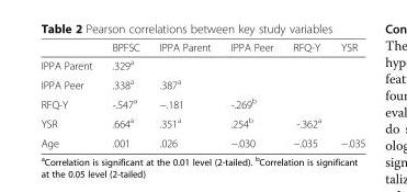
<table><thead><tr><td></td><td>BPFSC</td><td>IPPA Parent</td><td>IPPA Peer</td><td>RFQ-Y</td><td>YSR</td></tr></thead><tbody><tr><td>IPPA Parent</td><td>.329<sup>a</sup></td><td></td><td></td><td></td><td></td></tr><tr><td>IPPA Peer</td><td>.338<sup>a</sup></td><td>.387<sup>a</sup></td><td></td><td></td><td></td></tr><tr><td>RFQ-Y</td><td>-.547<sup>a</sup></td><td>−.181</td><td>-.269<sup>b</sup></td><td></td><td></td></tr><tr><td>YSR</td><td>.664<sup>a</sup></td><td>.351<sup>a</sup></td><td>.254<sup>b</sup></td><td>-.362<sup>a</sup></td><td></td></tr><tr><td>Age</td><td>.001</td><td>.026</td><td>−.030</td><td>−.035</td><td>−.035</td></tr></tbody></table>